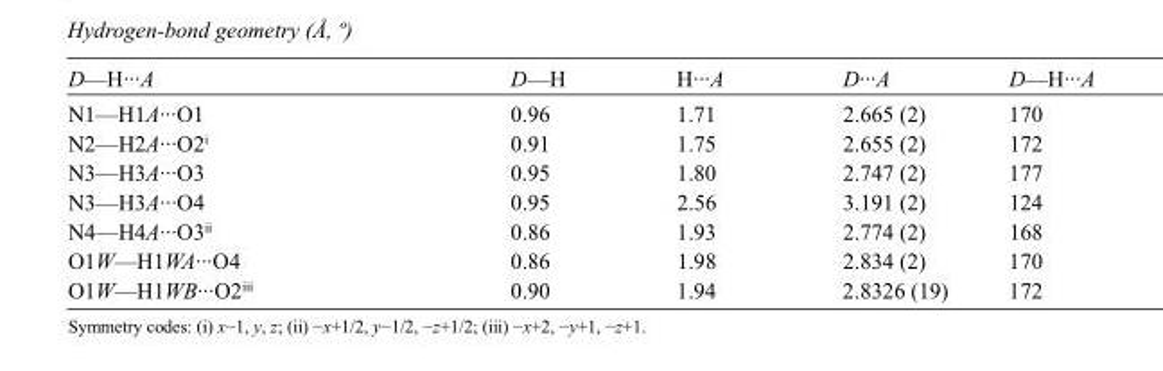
<table><tbody><tr><td>D—H···A</td><td>D—H</td><td>H···A</td><td>D···A</td><td>D—H···A</td></tr><tr><td>N1—H1A···O1</td><td>0.96</td><td>1.71</td><td>2.665 (2)</td><td>170</td></tr><tr><td>N2—H2A···O2<sup>i</sup></td><td>0.91</td><td>1.75</td><td>2.655 (2)</td><td>172</td></tr><tr><td>N3—H3A···O3</td><td>0.95</td><td>1.80</td><td>2.747 (2)</td><td>177</td></tr><tr><td>N3—H3A···O4</td><td>0.95</td><td>2.56</td><td>3.191 (2)</td><td>124</td></tr><tr><td>N4—H4A···O3<sup>ii</sup></td><td>0.86</td><td>1.93</td><td>2.774 (2)</td><td>168</td></tr><tr><td>O1W—H1WA···O4</td><td>0.86</td><td>1.98</td><td>2.834 (2)</td><td>170</td></tr><tr><td>O1W—H1WB···O2<sup>iii</sup></td><td>0.90</td><td>1.94</td><td>2.8326 (19)</td><td>172</td></tr></tbody></table>